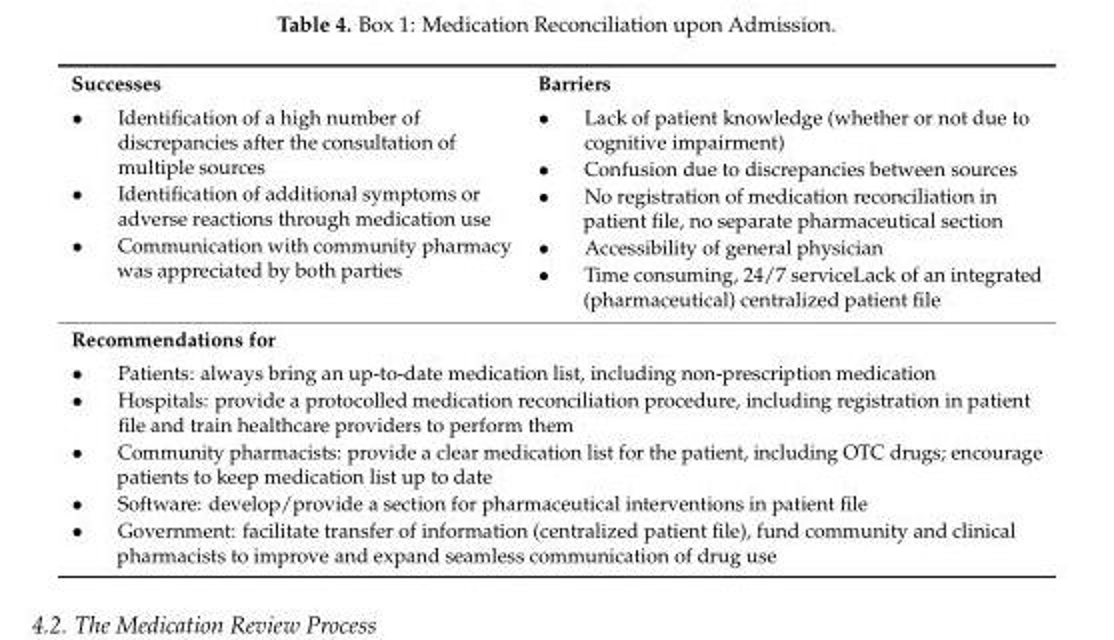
<table><tbody><tr><td>Successes • Identification of a high number of discrepancies after the consultation of multiple sources • Identification of additional symptoms or adverse reactions through medication use • Communication with community pharmacy was appreciated by both parties</td><td>Barriers • Lack of patient knowledge (whether or not due to cognitive impairment) • Confusion due to discrepancies between sources • No registration of medication reconciliation in patient file, no separate pharmaceutical section • Accessibility of general physician • Time consuming, 24/7 serviceLack of an integrated (pharmaceutical) centralized patient file</td></tr><tr><td colspan="2">Recommendations for • Patients: always bring an up-to-date medication list, including non-prescription medication • Hospitals: provide a protocolled medication reconciliation procedure, including registration in patient file and train healthcare providers to perform them • Community pharmacists: provide a clear medication list for the patient, including OTC drugs; encourage patients to keep medication list up to date • Software: develop/provide a section for pharmaceutical interventions in patient file • Government: facilitate transfer of information (centralized patient file), fund community and clinical pharmacists to improve and expand seamless communication of drug use</td></tr></tbody></table>